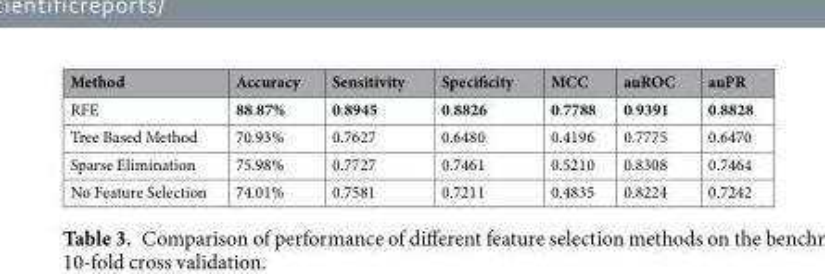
<table><thead><tr><td>Method</td><td>Accuracy</td><td>Sensitivity</td><td>Specificity</td><td>MCC</td><td>auROC</td><td>auPR</td></tr></thead><tbody><tr><td>RFE</td><td>88.87%</td><td>0.8945</td><td>0.8826</td><td>0.7788</td><td>0.9391</td><td>0.8828</td></tr><tr><td>Tree Based Method</td><td>70.93%</td><td>0.7627</td><td>0.6480</td><td>0.4196</td><td>0.7775</td><td>0.6470</td></tr><tr><td>Sparse Elimination</td><td>75.98%</td><td>0.7727</td><td>0.7461</td><td>0.5210</td><td>0.8308</td><td>0.7464</td></tr><tr><td>No Feature Selection</td><td>74.01%</td><td>0.7581</td><td>0.7211</td><td>0.4835</td><td>0.8224</td><td>0.7242</td></tr></tbody></table>